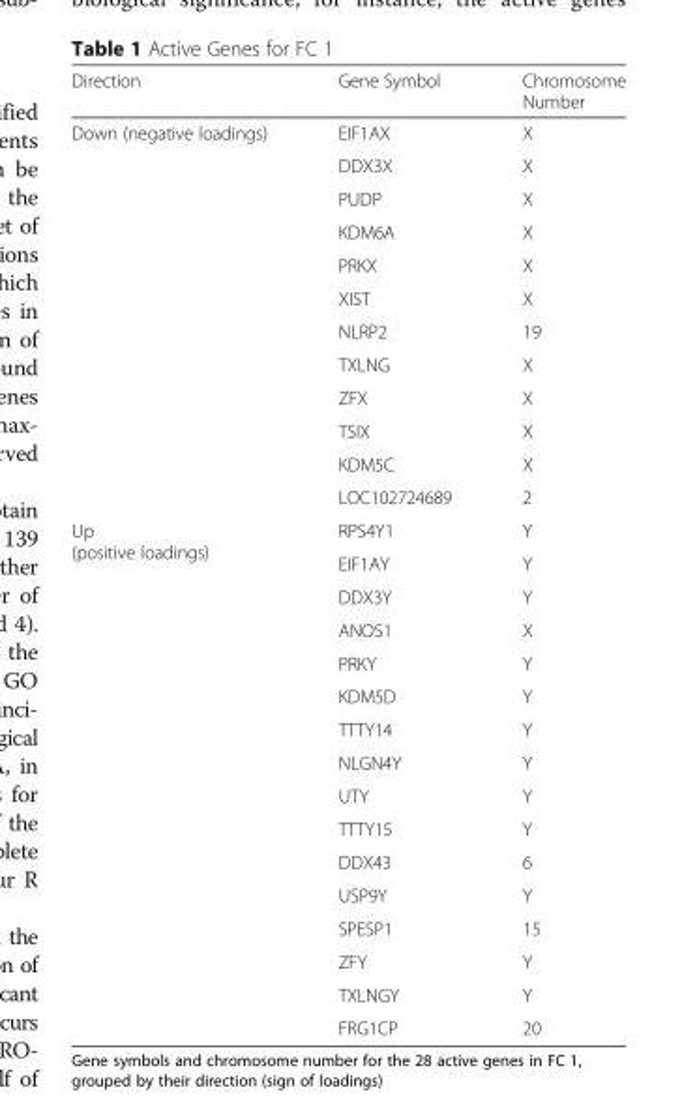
<table><thead><tr><td>Direction</td><td>Gene Symbol</td><td>Chromosome Number</td></tr></thead><tbody><tr><td rowspan="12">Down (negative loadings)</td><td>EIF1AX</td><td>X</td></tr><tr><td>DDX3X</td><td>X</td></tr><tr><td>PUDP</td><td>X</td></tr><tr><td>KDM6A</td><td>X</td></tr><tr><td>PRKX</td><td>X</td></tr><tr><td>XIST</td><td>X</td></tr><tr><td>NLRP2</td><td>19</td></tr><tr><td>TXLNG</td><td>X</td></tr><tr><td>ZFX</td><td>X</td></tr><tr><td>TSIX</td><td>X</td></tr><tr><td>KDM5C</td><td>X</td></tr><tr><td>LOC102724689</td><td>2</td></tr><tr><td rowspan="16">Up (positive loadings)</td><td>RPS4Y1</td><td>Y</td></tr><tr><td>EIF1AY</td><td>Y</td></tr><tr><td>DDX3Y</td><td>Y</td></tr><tr><td>ANOS1</td><td>X</td></tr><tr><td>PRKY</td><td>Y</td></tr><tr><td>KDM5D</td><td>Y</td></tr><tr><td>TTTY14</td><td>Y</td></tr><tr><td>NLGN4Y</td><td>Y</td></tr><tr><td>UTY</td><td>Y</td></tr><tr><td>TTTY15</td><td>Y</td></tr><tr><td>DDX43</td><td>6</td></tr><tr><td>USP9Y</td><td>Y</td></tr><tr><td>SPESP1</td><td>15</td></tr><tr><td>ZFY</td><td>Y</td></tr><tr><td>TXLNGY</td><td>Y</td></tr><tr><td>FRG1CP</td><td>20</td></tr></tbody></table>